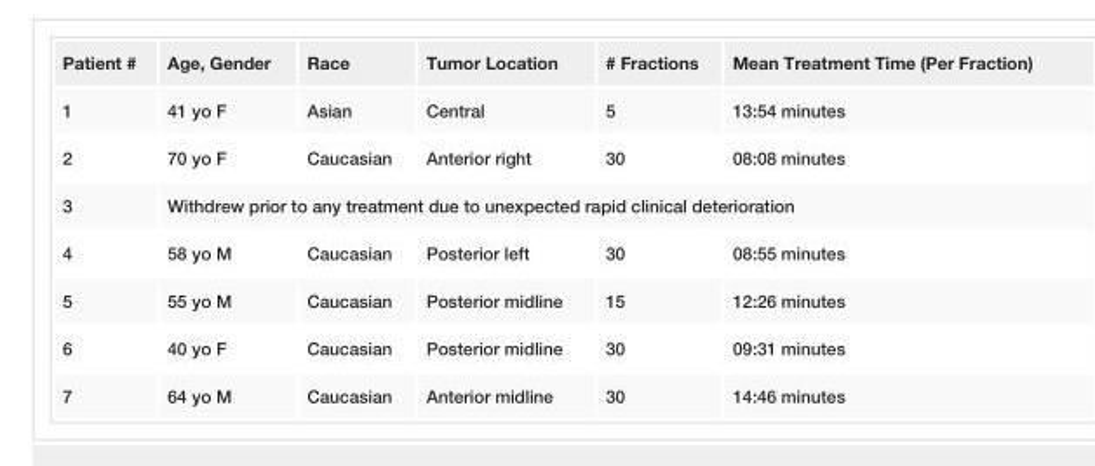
<table><tbody><tr><td>Patient #</td><td>Age, Gender</td><td>Race</td><td>Tumor Location</td><td># Fractions</td><td>Mean Treatment Time (Per Fraction)</td></tr><tr><td>1</td><td>41 yo F</td><td>Asian</td><td>Central</td><td>5</td><td>13:54 minutes</td></tr><tr><td>2</td><td>70 yo F</td><td>Caucasian</td><td>Anterior right</td><td>30</td><td>08:08 minutes</td></tr><tr><td>3</td><td colspan="5">Withdrew prior to any treatment due to unexpected rapid clinical deterioration</td></tr><tr><td>4</td><td>58 yo M</td><td>Caucasian</td><td>Posterior left</td><td>30</td><td>08:55 minutes</td></tr><tr><td>5</td><td>55 yo M</td><td>Caucasian</td><td>Posterior midline</td><td>15</td><td>12:26 minutes</td></tr><tr><td>6</td><td>40 yo F</td><td>Caucasian</td><td>Posterior midline</td><td>30</td><td>09:31 minutes</td></tr><tr><td>7</td><td>64 yo M</td><td>Caucasian</td><td>Anterior midline</td><td>30</td><td>14:46 minutes</td></tr></tbody></table>